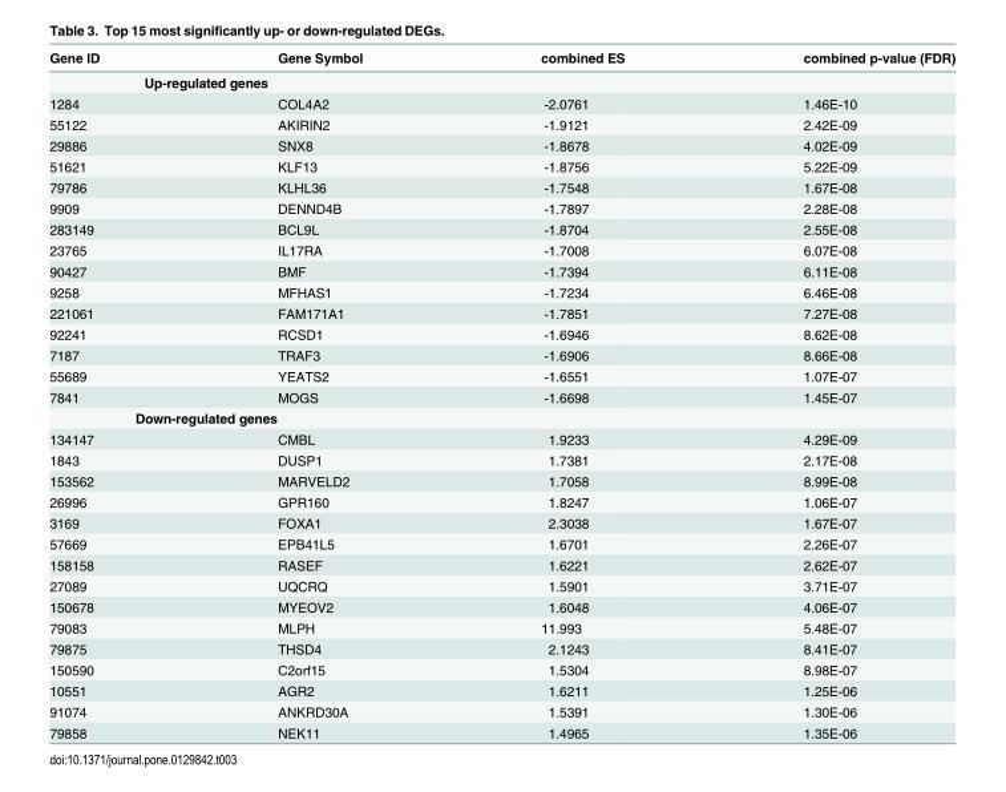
<table><thead><tr><td>Gene ID</td><td>Gene Symbol</td><td>combined ES</td><td>combined p-value (FDR)</td></tr></thead><tbody><tr><td colspan="4">Up-regulated genes</td></tr><tr><td>1284</td><td>COL4A2</td><td>-2.0761</td><td>1.46E-10</td></tr><tr><td>55122</td><td>AKIRIN2</td><td>-1.9121</td><td>2.42E-09</td></tr><tr><td>29886</td><td>SNX8</td><td>-1.8678</td><td>4.02E-09</td></tr><tr><td>51621</td><td>KLF13</td><td>-1.8756</td><td>5.22E-09</td></tr><tr><td>79786</td><td>KLHL36</td><td>-1.7548</td><td>1.67E-08</td></tr><tr><td>9909</td><td>DENND4B</td><td>-1.7897</td><td>2.28E-08</td></tr><tr><td>283149</td><td>BCL9L</td><td>-1.8704</td><td>2.55E-08</td></tr><tr><td>23765</td><td>IL17RA</td><td>-1.7008</td><td>6.07E-08</td></tr><tr><td>90427</td><td>BMF</td><td>-1.7394</td><td>6.11E-08</td></tr><tr><td>9258</td><td>MFHAS1</td><td>-1.7234</td><td>6.46E-08</td></tr><tr><td>221061</td><td>FAM171A1</td><td>-1.7851</td><td>7.27E-08</td></tr><tr><td>92241</td><td>RCSD1</td><td>-1.6946</td><td>8.62E-08</td></tr><tr><td>7187</td><td>TRAF3</td><td>-1.6906</td><td>8.66E-08</td></tr><tr><td>55689</td><td>YEATS2</td><td>-1.6551</td><td>1.07E-07</td></tr><tr><td>7841</td><td>MOGS</td><td>-1.6698</td><td>1.45E-07</td></tr><tr><td colspan="4">Down-regulated genes</td></tr><tr><td>134147</td><td>CMBL</td><td>1.9233</td><td>4.29E-09</td></tr><tr><td>1843</td><td>DUSP1</td><td>1.7381</td><td>2.17E-08</td></tr><tr><td>153562</td><td>MARVELD2</td><td>1.7058</td><td>8.99E-08</td></tr><tr><td>26996</td><td>GPR160</td><td>1.8247</td><td>1.06E-07</td></tr><tr><td>3169</td><td>FOXA1</td><td>2.3038</td><td>1.67E-07</td></tr><tr><td>57669</td><td>EPB41L5</td><td>1.6701</td><td>2.26E-07</td></tr><tr><td>158158</td><td>RASEF</td><td>1.6221</td><td>2.62E-07</td></tr><tr><td>27089</td><td>UQCRQ</td><td>1.5901</td><td>3.71E-07</td></tr><tr><td>150678</td><td>MYEOV2</td><td>1.6048</td><td>4.06E-07</td></tr><tr><td>79083</td><td>MLPH</td><td>11.993</td><td>5.48E-07</td></tr><tr><td>79875</td><td>THSD4</td><td>2.1243</td><td>8.41E-07</td></tr><tr><td>150590</td><td>C2orf15</td><td>1.5304</td><td>8.98E-07</td></tr><tr><td>10551</td><td>AGR2</td><td>1.6211</td><td>1.25E-06</td></tr><tr><td>91074</td><td>ANKRD30A</td><td>1.5391</td><td>1.30E-06</td></tr><tr><td>79858</td><td>NEK11</td><td>1.4965</td><td>1.35E-06</td></tr></tbody></table>